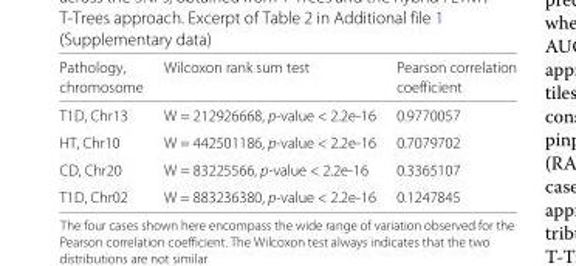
<table><thead><tr><td rowspan="2">Pathology, chromosome</td><td rowspan="2">Wilcoxon rank sum test</td><td rowspan="2">Pearson correlation coefficient</td></tr><tr></tr></thead><tbody><tr><td>T1D, Chr13</td><td>W = 212926668, p-value &lt; 2.2e-16</td><td>0.9770057</td></tr><tr><td>HT, Chr10</td><td>W = 442501186, p-value &lt; 2.2e-16</td><td>0.7079702</td></tr><tr><td>CD, Chr20</td><td>W = 83225566, p-value &lt; 2.2e-16</td><td>0.3365107</td></tr><tr><td>T1D, Chr02</td><td>W = 883236380, p-value &lt; 2.2e-16</td><td>0.1247845</td></tr></tbody></table>